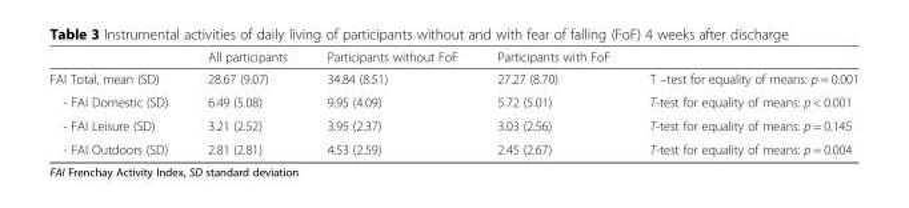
<table><thead><tr><td></td><td>All participants</td><td>Participants without FoF</td><td>Participants with FoF</td><td></td></tr></thead><tbody><tr><td>FAI Total, mean (SD)</td><td>28.67 (9.07)</td><td>34.84 (8.51)</td><td>27.27 (8.70)</td><td>T –test for equality of means: p = 0.001</td></tr><tr><td>- FAI Domestic (SD)</td><td>6.49 (5.08)</td><td>9.95 (4.09)</td><td>5.72 (5.01)</td><td>T-test for equality of means: p &lt; 0.001</td></tr><tr><td>- FAI Leisure (SD)</td><td>3.21 (2.52)</td><td>3.95 (2.37)</td><td>3.03 (2.56)</td><td>T-test for equality of means: p = 0.145</td></tr><tr><td>- FAI Outdoors (SD)</td><td>2.81 (2.81)</td><td>4.53 (2.59)</td><td>2.45 (2.67)</td><td>T-test for equality of means: p = 0.004</td></tr></tbody></table>